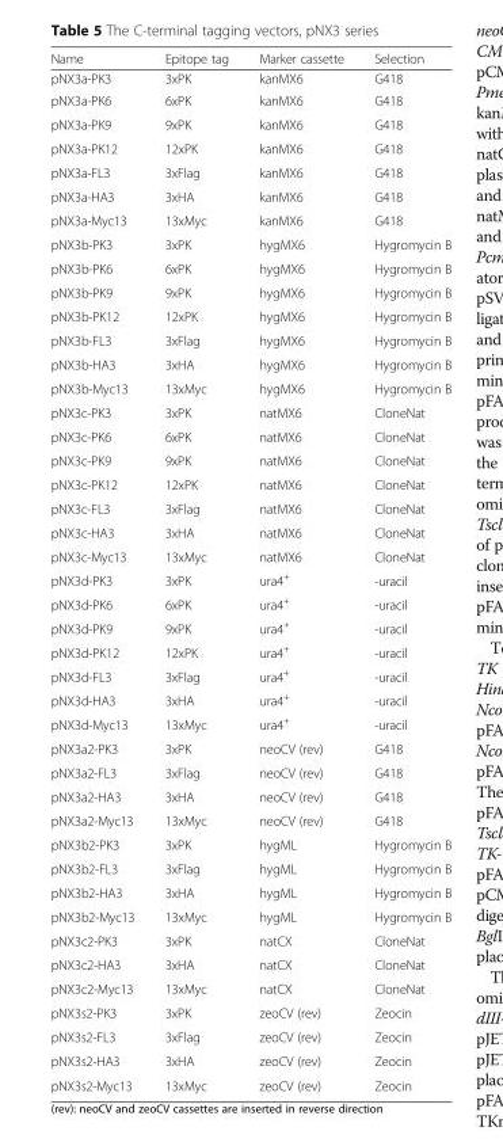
<table><thead><tr><td>Name</td><td>Epitope tag</td><td>Marker cassette</td><td>Selection</td></tr></thead><tbody><tr><td>pNX3a-PK3</td><td>3xPK</td><td>kanMX6</td><td>G418</td></tr><tr><td>pNX3a-PK6</td><td>6xPK</td><td>kanMX6</td><td>G418</td></tr><tr><td>pNX3a-PK9</td><td>9xPK</td><td>kanMX6</td><td>G418</td></tr><tr><td>pNX3a-PK12</td><td>12xPK</td><td>kanMX6</td><td>G418</td></tr><tr><td>pNX3a-FL3</td><td>3xFlag</td><td>kanMX6</td><td>G418</td></tr><tr><td>pNX3a-HA3</td><td>3xHA</td><td>kanMX6</td><td>G418</td></tr><tr><td>pNX3a-Myc13</td><td>13xMyc</td><td>kanMX6</td><td>G418</td></tr><tr><td>pNX3b-PK3</td><td>3xPK</td><td>hygMX6</td><td>Hygromycin B</td></tr><tr><td>pNX3b-PK6</td><td>6xPK</td><td>hygMX6</td><td>Hygromycin B</td></tr><tr><td>pNX3b-PK9</td><td>9xPK</td><td>hygMX6</td><td>Hygromycin B</td></tr><tr><td>pNX3b-PK12</td><td>12xPK</td><td>hygMX6</td><td>Hygromycin B</td></tr><tr><td>pNX3b-FL3</td><td>3xFlag</td><td>hygMX6</td><td>Hygromycin B</td></tr><tr><td>pNX3b-HA3</td><td>3xHA</td><td>hygMX6</td><td>Hygromycin B</td></tr><tr><td>pNX3b-Myc13</td><td>13xMyc</td><td>hygMX6</td><td>Hygromycin B</td></tr><tr><td>pNX3c-PK3</td><td>3xPK</td><td>natMX6</td><td>CloneNat</td></tr><tr><td>pNX3c-PK6</td><td>6xPK</td><td>natMX6</td><td>CloneNat</td></tr><tr><td>pNX3c-PK9</td><td>9xPK</td><td>natMX6</td><td>CloneNat</td></tr><tr><td>pNX3c-PK12</td><td>12xPK</td><td>natMX6</td><td>CloneNat</td></tr><tr><td>pNX3c-FL3</td><td>3xFlag</td><td>natMX6</td><td>CloneNat</td></tr><tr><td>pNX3c-HA3</td><td>3xHA</td><td>natMX6</td><td>CloneNat</td></tr><tr><td>pNX3c-Myc13</td><td>13xMyc</td><td>natMX6</td><td>CloneNat</td></tr><tr><td>pNX3d-PK3</td><td>3xPK</td><td>ura4<sup>+</sup></td><td>-uracil</td></tr><tr><td>pNX3d-PK6</td><td>6xPK</td><td>ura4<sup>+</sup></td><td>-uracil</td></tr><tr><td>pNX3d-PK9</td><td>9xPK</td><td>ura4<sup>+</sup></td><td>-uracil</td></tr><tr><td>pNX3d-PK12</td><td>12xPK</td><td>ura4<sup>+</sup></td><td>-uracil</td></tr><tr><td>pNX3d-FL3</td><td>3xFlag</td><td>ura4<sup>+</sup></td><td>-uracil</td></tr><tr><td>pNX3d-HA3</td><td>3xHA</td><td>ura4<sup>+</sup></td><td>-uracil</td></tr><tr><td>pNX3d-Myc13</td><td>13xMyc</td><td>ura4<sup>+</sup></td><td>-uracil</td></tr><tr><td>pNX3a2-PK3</td><td>3xPK</td><td>neoCV (rev)</td><td>G418</td></tr><tr><td>pNX3a2-FL3</td><td>3xFlag</td><td>neoCV (rev)</td><td>G418</td></tr><tr><td>pNX3a2-HA3</td><td>3xHA</td><td>neoCV (rev)</td><td>G418</td></tr><tr><td>pNX3a2-Myc13</td><td>13xMyc</td><td>neoCV (rev)</td><td>G418</td></tr><tr><td>pNX3b2-PK3</td><td>3xPK</td><td>hygML</td><td>Hygromycin B</td></tr><tr><td>pNX3b2-FL3</td><td>3xFlag</td><td>hygML</td><td>Hygromycin B</td></tr><tr><td>pNX3b2-HA3</td><td>3xHA</td><td>hygML</td><td>Hygromycin B</td></tr><tr><td>pNX3b2-Myc13</td><td>13xMyc</td><td>hygML</td><td>Hygromycin B</td></tr><tr><td>pNX3c2-PK3</td><td>3xPK</td><td>natCX</td><td>CloneNat</td></tr><tr><td>pNX3c2-HA3</td><td>3xHA</td><td>natCX</td><td>CloneNat</td></tr><tr><td>pNX3c2-Myc13</td><td>13xMyc</td><td>natCX</td><td>CloneNat</td></tr><tr><td>pNX3s2-PK3</td><td>3xPK</td><td>zeoCV (rev)</td><td>Zeocin</td></tr><tr><td>pNX3s2-FL3</td><td>3xFlag</td><td>zeoCV (rev)</td><td>Zeocin</td></tr><tr><td>pNX3s2-HA3</td><td>3xHA</td><td>zeoCV (rev)</td><td>Zeocin</td></tr><tr><td>pNX3s2-Myc13</td><td>13xMyc</td><td>zeoCV (rev)</td><td>Zeocin</td></tr></tbody></table>